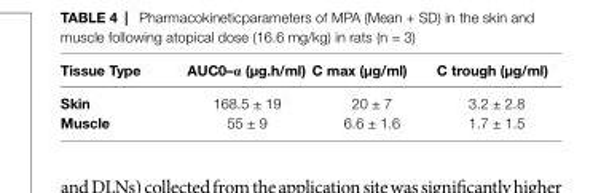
<table><thead><tr><td>Tissue Type</td><td>AUC<sub>0–α</sub> (µg.h/ml)</td><td>C <sub>max</sub> (µg/ml)</td><td>C <sub>trough</sub> (µg/ml)</td></tr></thead><tbody><tr><td>Skin</td><td>168.5 ± 19</td><td>20 ± 7</td><td>3.2 ± 2.8</td></tr><tr><td>Muscle</td><td>55 ± 9</td><td>6.6 ± 1.6</td><td>1.7 ± 1.5</td></tr></tbody></table>